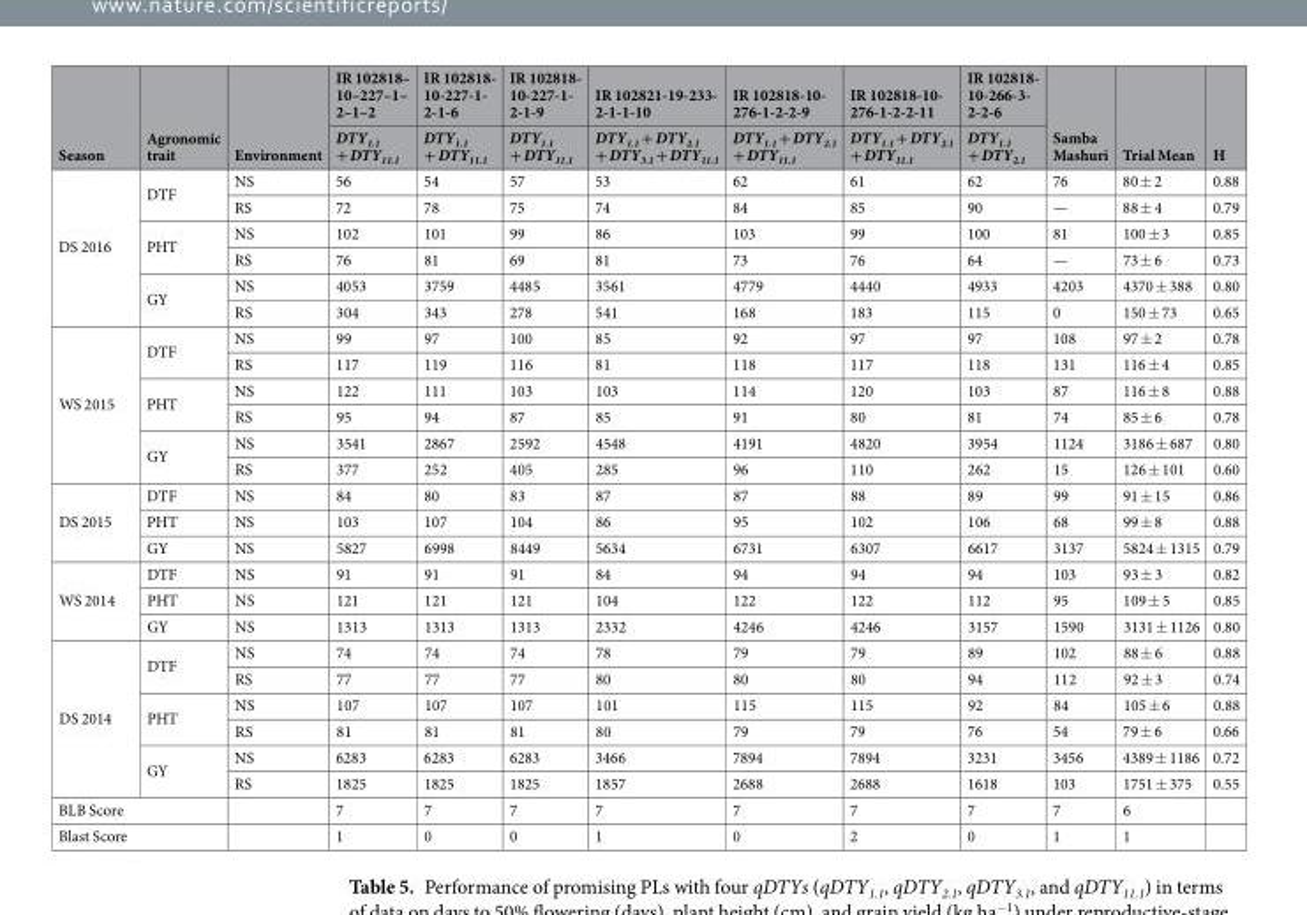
<table><thead><tr><td rowspan="2">Season</td><td rowspan="2">Agronomic trait</td><td rowspan="2">Environment</td><td rowspan="2">IR 102818– 10–227–1– 2–1–2 DTY<sub>1.1</sub> + DTY<sub>11.1</sub></td><td rowspan="2">IR 102818- 10-227-1- 2-1-6 DTY<sub>1.1</sub> + DTY<sub>11.1</sub></td><td rowspan="2">IR 102818- 10-227-1- 2-1-9 DTY<sub>1.1</sub> + DTY<sub>11.1</sub></td><td rowspan="2">IR 102821-19-233- 2-1-1-10 DTY<sub>1.1</sub> + DTY<sub>2.1</sub> + DTY<sub>3.1</sub> + DTY<sub>11.1</sub></td><td rowspan="2">IR 102818-10- 276-1-2-2-9 DTY<sub>1.1</sub> + DTY<sub>2.1</sub> + DTY<sub>11.1</sub></td><td rowspan="2">IR 102818-10- 276-1-2-2-11 DTY<sub>1.1</sub> + DTY<sub>2.1</sub> + DTY<sub>11.1</sub></td><td rowspan="2">IR 102818- 10-266-3- 2-2-6 DTY<sub>1.1</sub> + DTY<sub>2.1</sub></td><td rowspan="2">Samba Mashuri</td><td rowspan="2">Trial Mean</td><td rowspan="2">H</td></tr><tr></tr></thead><tbody><tr><td rowspan="6">DS 2016</td><td rowspan="2">DTF</td><td>NS</td><td>56</td><td>54</td><td>57</td><td>53</td><td>62</td><td>61</td><td>62</td><td>76</td><td>80 ± 2</td><td>0.88</td></tr><tr><td>RS</td><td>72</td><td>78</td><td>75</td><td>74</td><td>84</td><td>85</td><td>90</td><td>—</td><td>88 ± 4</td><td>0.79</td></tr><tr><td rowspan="2">PHT</td><td>NS</td><td>102</td><td>101</td><td>99</td><td>86</td><td>103</td><td>99</td><td>100</td><td>81</td><td>100 ± 3</td><td>0.85</td></tr><tr><td>RS</td><td>76</td><td>81</td><td>69</td><td>81</td><td>73</td><td>76</td><td>64</td><td>—</td><td>73 ± 6</td><td>0.73</td></tr><tr><td rowspan="2">GY</td><td>NS</td><td>4053</td><td>3759</td><td>4485</td><td>3561</td><td>4779</td><td>4440</td><td>4933</td><td>4203</td><td>4370 ± 388</td><td>0.80</td></tr><tr><td>RS</td><td>304</td><td>343</td><td>278</td><td>541</td><td>168</td><td>183</td><td>115</td><td>0</td><td>150 ± 73</td><td>0.65</td></tr><tr><td rowspan="6">WS 2015</td><td rowspan="2">DTF</td><td>NS</td><td>99</td><td>97</td><td>100</td><td>85</td><td>92</td><td>97</td><td>97</td><td>108</td><td>97 ± 2</td><td>0.78</td></tr><tr><td>RS</td><td>117</td><td>119</td><td>116</td><td>81</td><td>118</td><td>117</td><td>118</td><td>131</td><td>116 ± 4</td><td>0.85</td></tr><tr><td rowspan="2">PHT</td><td>NS</td><td>122</td><td>111</td><td>103</td><td>103</td><td>114</td><td>120</td><td>103</td><td>87</td><td>116 ± 8</td><td>0.88</td></tr><tr><td>RS</td><td>95</td><td>94</td><td>87</td><td>85</td><td>91</td><td>80</td><td>81</td><td>74</td><td>85 ± 6</td><td>0.78</td></tr><tr><td rowspan="2">GY</td><td>NS</td><td>3541</td><td>2867</td><td>2592</td><td>4548</td><td>4191</td><td>4820</td><td>3954</td><td>1124</td><td>3186 ± 687</td><td>0.80</td></tr><tr><td>RS</td><td>377</td><td>252</td><td>405</td><td>285</td><td>96</td><td>110</td><td>262</td><td>15</td><td>126 ± 101</td><td>0.60</td></tr><tr><td rowspan="3">DS 2015</td><td>DTF</td><td>NS</td><td>84</td><td>80</td><td>83</td><td>87</td><td>87</td><td>88</td><td>89</td><td>99</td><td>91 ± 15</td><td>0.86</td></tr><tr><td>PHT</td><td>NS</td><td>103</td><td>107</td><td>104</td><td>86</td><td>95</td><td>102</td><td>106</td><td>68</td><td>99 ± 8</td><td>0.88</td></tr><tr><td>GY</td><td>NS</td><td>5827</td><td>6998</td><td>8449</td><td>5634</td><td>6731</td><td>6307</td><td>6617</td><td>3137</td><td>5824 ± 1315</td><td>0.79</td></tr><tr><td rowspan="3">WS 2014</td><td>DTF</td><td>NS</td><td>91</td><td>91</td><td>91</td><td>84</td><td>94</td><td>94</td><td>94</td><td>103</td><td>93 ± 3</td><td>0.82</td></tr><tr><td>PHT</td><td>NS</td><td>121</td><td>121</td><td>121</td><td>104</td><td>122</td><td>122</td><td>112</td><td>95</td><td>109 ± 5</td><td>0.85</td></tr><tr><td>GY</td><td>NS</td><td>1313</td><td>1313</td><td>1313</td><td>2332</td><td>4246</td><td>4246</td><td>3157</td><td>1590</td><td>3131 ± 1126</td><td>0.80</td></tr><tr><td rowspan="6">DS 2014</td><td rowspan="2">DTF</td><td>NS</td><td>74</td><td>74</td><td>74</td><td>78</td><td>79</td><td>79</td><td>89</td><td>102</td><td>88 ± 6</td><td>0.88</td></tr><tr><td>RS</td><td>77</td><td>77</td><td>77</td><td>80</td><td>80</td><td>80</td><td>94</td><td>112</td><td>92 ± 3</td><td>0.74</td></tr><tr><td rowspan="2">PHT</td><td>NS</td><td>107</td><td>107</td><td>107</td><td>101</td><td>115</td><td>115</td><td>92</td><td>84</td><td>105 ± 6</td><td>0.88</td></tr><tr><td>RS</td><td>81</td><td>81</td><td>81</td><td>80</td><td>79</td><td>79</td><td>76</td><td>54</td><td>79 ± 6</td><td>0.66</td></tr><tr><td rowspan="2">GY</td><td>NS</td><td>6283</td><td>6283</td><td>6283</td><td>3466</td><td>7894</td><td>7894</td><td>3231</td><td>3456</td><td>4389 ± 1186</td><td>0.72</td></tr><tr><td>RS</td><td>1825</td><td>1825</td><td>1825</td><td>1857</td><td>2688</td><td>2688</td><td>1618</td><td>103</td><td>1751 ± 375</td><td>0.55</td></tr><tr><td colspan="2">BLB Score</td><td></td><td>7</td><td>7</td><td>7</td><td>7</td><td>7</td><td>7</td><td>7</td><td>7</td><td>6</td><td></td></tr><tr><td colspan="2">Blast Score</td><td></td><td>1</td><td>0</td><td>0</td><td>1</td><td>0</td><td>2</td><td>0</td><td>1</td><td>1</td><td></td></tr></tbody></table>